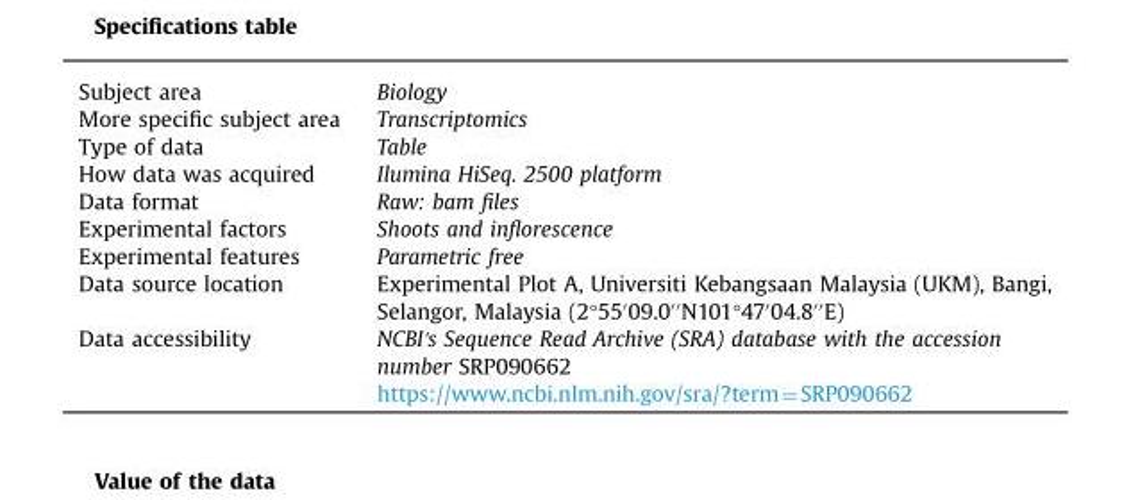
<table><tbody><tr><td>Subject area</td><td>Biology</td></tr><tr><td>More specific subject area</td><td>Transcriptomics</td></tr><tr><td>Type of data</td><td>Table</td></tr><tr><td>How data was acquired</td><td>Ilumina HiSeq. 2500 platform</td></tr><tr><td>Data format</td><td>Raw: bam files</td></tr><tr><td>Experimental factors</td><td>Shoots and inflorescence</td></tr><tr><td>Experimental features</td><td>Parametric free</td></tr><tr><td>Data source location</td><td>Experimental Plot A, Universiti Kebangsaan Malaysia (UKM), Bangi, Selangor, Malaysia (2°55′09.0′′N101°47′04.8′′E)</td></tr><tr><td rowspan="2">Data accessibility</td><td>NCBI&#x27;s Sequence Read Archive (SRA) database with the accession number SRP090662</td></tr><tr><td>https://www.ncbi.nlm.nih.gov/sra/?term=SRP090662</td></tr></tbody></table>